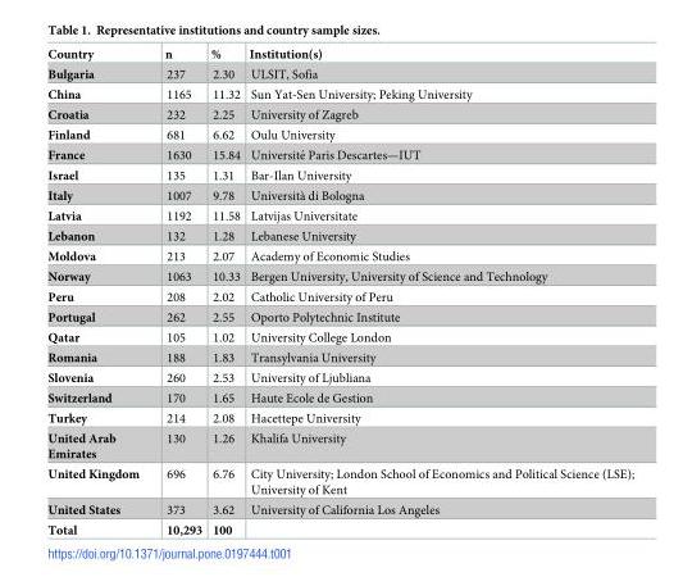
<table><thead><tr><td>Country</td><td>n</td><td>%</td><td>Institution(s)</td></tr></thead><tbody><tr><td>Bulgaria</td><td>237</td><td>2.30</td><td>ULSIT, Sofia</td></tr><tr><td>China</td><td>1165</td><td>11.32</td><td>Sun Yat-Sen University; Peking University</td></tr><tr><td>Croatia</td><td>232</td><td>2.25</td><td>University of Zagreb</td></tr><tr><td>Finland</td><td>681</td><td>6.62</td><td>Oulu University</td></tr><tr><td>France</td><td>1630</td><td>15.84</td><td>Universite´ Paris Descartes—IUT</td></tr><tr><td>Israel</td><td>135</td><td>1.31</td><td>Bar-Ilan University</td></tr><tr><td>Italy</td><td>1007</td><td>9.78</td><td>Università di Bologna</td></tr><tr><td>Latvia</td><td>1192</td><td>11.58</td><td>Latvijas Universitate</td></tr><tr><td>Lebanon</td><td>132</td><td>1.28</td><td>Lebanese University</td></tr><tr><td>Moldova</td><td>213</td><td>2.07</td><td>Academy of Economic Studies</td></tr><tr><td>Norway</td><td>1063</td><td>10.33</td><td>Bergen University, University of Science and Technology</td></tr><tr><td>Peru</td><td>208</td><td>2.02</td><td>Catholic University of Peru</td></tr><tr><td>Portugal</td><td>262</td><td>2.55</td><td>Oporto Polytechnic Institute</td></tr><tr><td>Qatar</td><td>105</td><td>1.02</td><td>University College London</td></tr><tr><td>Romania</td><td>188</td><td>1.83</td><td>Transylvania University</td></tr><tr><td>Slovenia</td><td>260</td><td>2.53</td><td>University of Ljubliana</td></tr><tr><td>Switzerland</td><td>170</td><td>1.65</td><td>Haute Ecole de Gestion</td></tr><tr><td>Turkey</td><td>214</td><td>2.08</td><td>Hacettepe University</td></tr><tr><td>United Arab Emirates</td><td>130</td><td>1.26</td><td>Khalifa University</td></tr><tr><td>United Kingdom</td><td>696</td><td>6.76</td><td>City University; London School of Economics and Political Science (LSE); University of Kent</td></tr><tr><td>United States</td><td>373</td><td>3.62</td><td>University of California Los Angeles</td></tr><tr><td>Total</td><td>10,293</td><td>100</td><td></td></tr></tbody></table>